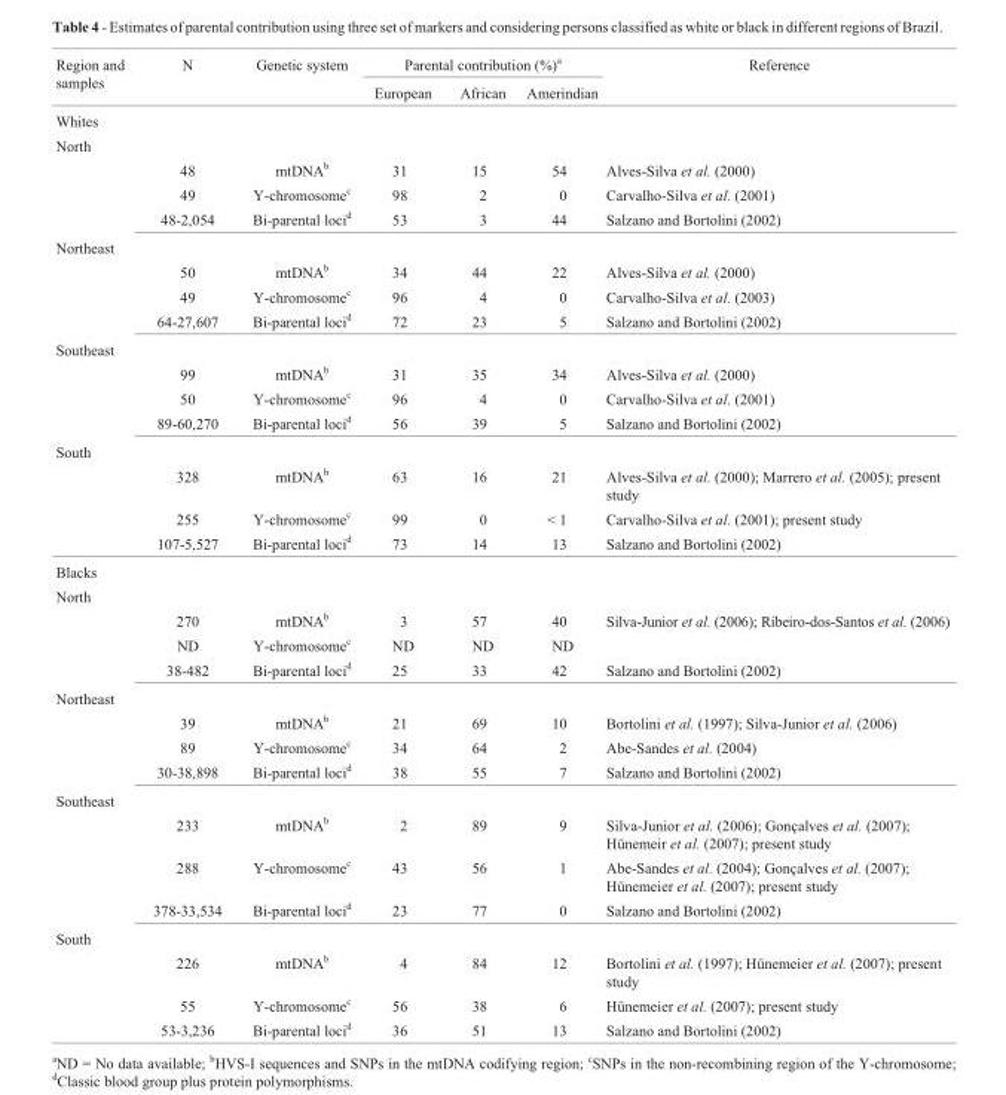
<table><thead><tr><td rowspan="2">Region and samples</td><td rowspan="2">N</td><td rowspan="2">Genetic system</td><td colspan="3">Parental contribution (%)<sup>a</sup></td><td rowspan="2">Reference</td></tr><tr><td>European</td><td>African</td><td>Amerindian</td></tr></thead><tbody><tr><td colspan="7">Whites</td></tr><tr><td colspan="7">North</td></tr><tr><td></td><td>48</td><td>mtDNA<sup>b</sup></td><td>31</td><td>15</td><td>54</td><td>Alves-Silva et al. (2000)</td></tr><tr><td></td><td>49</td><td>Y-chromosome<sup>c</sup></td><td>98</td><td>2</td><td>0</td><td>Carvalho-Silva et al. (2001)</td></tr><tr><td></td><td>48-2,054</td><td>Bi-parental loci<sup>d</sup></td><td>53</td><td>3</td><td>44</td><td>Salzano and Bortolini (2002)</td></tr><tr><td colspan="7">Northeast</td></tr><tr><td></td><td>50</td><td>mtDNA<sup>b</sup></td><td>34</td><td>44</td><td>22</td><td>Alves-Silva et al. (2000)</td></tr><tr><td></td><td>49</td><td>Y-chromosome<sup>c</sup></td><td>96</td><td>4</td><td>0</td><td>Carvalho-Silva et al. (2003)</td></tr><tr><td></td><td>64-27,607</td><td>Bi-parental loci<sup>d</sup></td><td>72</td><td>23</td><td>5</td><td>Salzano and Bortolini (2002)</td></tr><tr><td colspan="7">Southeast</td></tr><tr><td></td><td>99</td><td>mtDNA<sup>b</sup></td><td>31</td><td>35</td><td>34</td><td>Alves-Silva et al. (2000)</td></tr><tr><td></td><td>50</td><td>Y-chromosome<sup>c</sup></td><td>96</td><td>4</td><td>0</td><td>Carvalho-Silva et al. (2001)</td></tr><tr><td></td><td>89-60,270</td><td>Bi-parental loci<sup>d</sup></td><td>56</td><td>39</td><td>5</td><td>Salzano and Bortolini (2002)</td></tr><tr><td colspan="7">South</td></tr><tr><td></td><td>328</td><td>mtDNA<sup>b</sup></td><td>63</td><td>16</td><td>21</td><td>Alves-Silva et al. (2000); Marrero et al. (2005); present study</td></tr><tr><td></td><td>255</td><td>Y-chromosome<sup>c</sup></td><td>99</td><td>0</td><td>&lt; 1</td><td>Carvalho-Silva et al. (2001); present study</td></tr><tr><td></td><td>107-5,527</td><td>Bi-parental loci<sup>d</sup></td><td>73</td><td>14</td><td>13</td><td>Salzano and Bortolini (2002)</td></tr><tr><td colspan="7">Blacks</td></tr><tr><td colspan="7">North</td></tr><tr><td></td><td>270</td><td>mtDNA<sup>b</sup></td><td>3</td><td>57</td><td>40</td><td>Silva-Junior et al. (2006); Ribeiro-dos-Santos et al. (2006)</td></tr><tr><td></td><td>ND</td><td>Y-chromosome<sup>c</sup></td><td>ND</td><td>ND</td><td>ND</td><td></td></tr><tr><td></td><td>38-482</td><td>Bi-parental loci<sup>d</sup></td><td>25</td><td>33</td><td>42</td><td>Salzano and Bortolini (2002)</td></tr><tr><td colspan="7">Northeast</td></tr><tr><td></td><td>39</td><td>mtDNA<sup>b</sup></td><td>21</td><td>69</td><td>10</td><td>Bortolini et al. (1997); Silva-Junior et al. (2006)</td></tr><tr><td></td><td>89</td><td>Y-chromosome<sup>c</sup></td><td>34</td><td>64</td><td>2</td><td>Abe-Sandes et al. (2004)</td></tr><tr><td></td><td>30-38,898</td><td>Bi-parental loci<sup>d</sup></td><td>38</td><td>55</td><td>7</td><td>Salzano and Bortolini (2002)</td></tr><tr><td colspan="7">Southeast</td></tr><tr><td></td><td>233</td><td>mtDNA<sup>b</sup></td><td>2</td><td>89</td><td>9</td><td>Silva-Junior et al. (2006); Gonçalves et al. (2007); Hünemeir et al. (2007); present study</td></tr><tr><td></td><td>288</td><td>Y-chromosome<sup>c</sup></td><td>43</td><td>56</td><td>1</td><td>Abe-Sandes et al. (2004); Gonçalves et al. (2007); Hünemeier et al. (2007); present study</td></tr><tr><td></td><td>378-33,534</td><td>Bi-parental loci<sup>d</sup></td><td>23</td><td>77</td><td>0</td><td>Salzano and Bortolini (2002)</td></tr><tr><td colspan="7">South</td></tr><tr><td></td><td>226</td><td>mtDNA<sup>b</sup></td><td>4</td><td>84</td><td>12</td><td>Bortolini et al. (1997); Hünemeier et al. (2007); present study</td></tr><tr><td></td><td>55</td><td>Y-chromosome<sup>c</sup></td><td>56</td><td>38</td><td>6</td><td>Hünemeier et al. (2007); present study</td></tr><tr><td></td><td>53-3,236</td><td>Bi-parental loci<sup>d</sup></td><td>36</td><td>51</td><td>13</td><td>Salzano and Bortolini (2002)</td></tr></tbody></table>